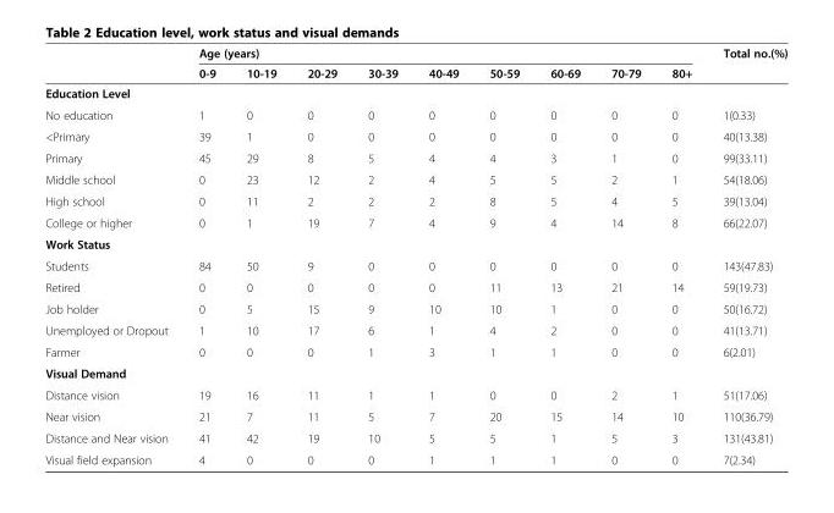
<table><thead><tr><td rowspan="2"></td><td colspan="9">Age (years)</td><td rowspan="2">Total no.(%)</td></tr><tr><td>0-9</td><td>10-19</td><td>20-29</td><td>30-39</td><td>40-49</td><td>50-59</td><td>60-69</td><td>70-79</td><td>80+</td></tr></thead><tbody><tr><td colspan="11">Education Level</td></tr><tr><td>No education</td><td>1</td><td>0</td><td>0</td><td>0</td><td>0</td><td>0</td><td>0</td><td>0</td><td>0</td><td>1(0.33)</td></tr><tr><td>&lt;Primary</td><td>39</td><td>1</td><td>0</td><td>0</td><td>0</td><td>0</td><td>0</td><td>0</td><td>0</td><td>40(13.38)</td></tr><tr><td>Primary</td><td>45</td><td>29</td><td>8</td><td>5</td><td>4</td><td>4</td><td>3</td><td>1</td><td>0</td><td>99(33.11)</td></tr><tr><td>Middle school</td><td>0</td><td>23</td><td>12</td><td>2</td><td>4</td><td>5</td><td>5</td><td>2</td><td>1</td><td>54(18.06)</td></tr><tr><td>High school</td><td>0</td><td>11</td><td>2</td><td>2</td><td>2</td><td>8</td><td>5</td><td>4</td><td>5</td><td>39(13.04)</td></tr><tr><td>College or higher</td><td>0</td><td>1</td><td>19</td><td>7</td><td>4</td><td>9</td><td>4</td><td>14</td><td>8</td><td>66(22.07)</td></tr><tr><td colspan="11">Work Status</td></tr><tr><td>Students</td><td>84</td><td>50</td><td>9</td><td>0</td><td>0</td><td>0</td><td>0</td><td>0</td><td>0</td><td>143(47.83)</td></tr><tr><td>Retired</td><td>0</td><td>0</td><td>0</td><td>0</td><td>0</td><td>11</td><td>13</td><td>21</td><td>14</td><td>59(19.73)</td></tr><tr><td>Job holder</td><td>0</td><td>5</td><td>15</td><td>9</td><td>10</td><td>10</td><td>1</td><td>0</td><td>0</td><td>50(16.72)</td></tr><tr><td>Unemployed or Dropout</td><td>1</td><td>10</td><td>17</td><td>6</td><td>1</td><td>4</td><td>2</td><td>0</td><td>0</td><td>41(13.71)</td></tr><tr><td>Farmer</td><td>0</td><td>0</td><td>0</td><td>1</td><td>3</td><td>1</td><td>1</td><td>0</td><td>0</td><td>6(2.01)</td></tr><tr><td colspan="11">Visual Demand</td></tr><tr><td>Distance vision</td><td>19</td><td>16</td><td>11</td><td>1</td><td>1</td><td>0</td><td>0</td><td>2</td><td>1</td><td>51(17.06)</td></tr><tr><td>Near vision</td><td>21</td><td>7</td><td>11</td><td>5</td><td>7</td><td>20</td><td>15</td><td>14</td><td>10</td><td>110(36.79)</td></tr><tr><td>Distance and Near vision</td><td>41</td><td>42</td><td>19</td><td>10</td><td>5</td><td>5</td><td>1</td><td>5</td><td>3</td><td>131(43.81)</td></tr><tr><td>Visual field expansion</td><td>4</td><td>0</td><td>0</td><td>0</td><td>1</td><td>1</td><td>1</td><td>0</td><td>0</td><td>7(2.34)</td></tr></tbody></table>